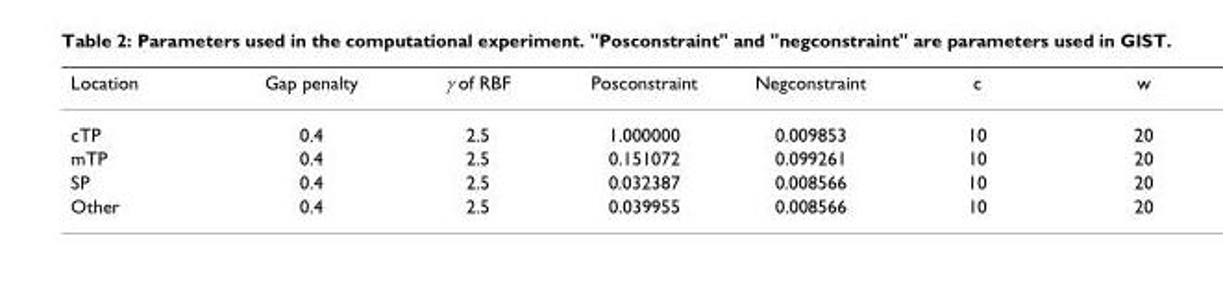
<table><thead><tr><td>Location</td><td>Gap penalty</td><td>γ of RBF</td><td>Posconstraint</td><td>Negconstraint</td><td>c</td><td>w</td></tr></thead><tbody><tr><td>cTP</td><td>0.4</td><td>2.5</td><td>1.000000</td><td>0.009853</td><td>10</td><td>20</td></tr><tr><td>mTP</td><td>0.4</td><td>2.5</td><td>0.151072</td><td>0.099261</td><td>10</td><td>20</td></tr><tr><td>SP</td><td>0.4</td><td>2.5</td><td>0.032387</td><td>0.008566</td><td>10</td><td>20</td></tr><tr><td>Other</td><td>0.4</td><td>2.5</td><td>0.039955</td><td>0.008566</td><td>10</td><td>20</td></tr></tbody></table>